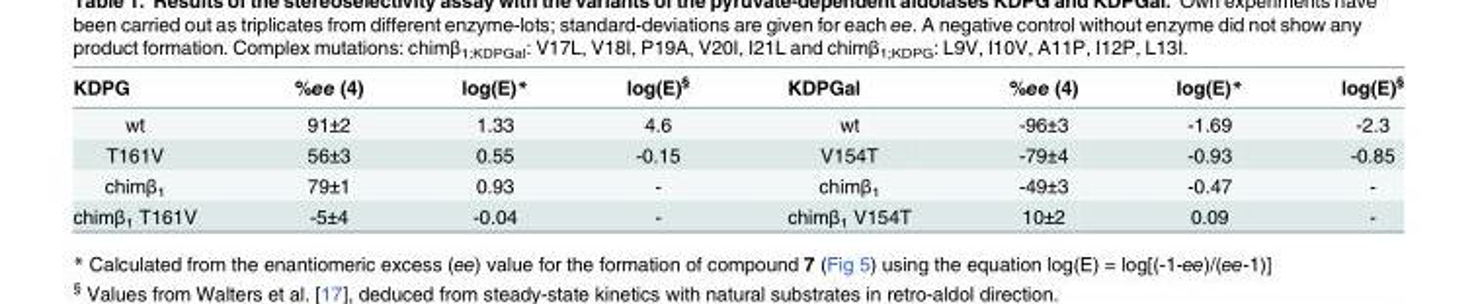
<table><thead><tr><td>KDPG</td><td>%ee (4)</td><td>log(E)*</td><td>log(E)<sup>§</sup></td><td>KDPGal</td><td>%ee (4)</td><td>log(E)*</td><td>log(E)<sup>§</sup></td></tr></thead><tbody><tr><td>wt</td><td>91±2</td><td>1.33</td><td>4.6</td><td>wt</td><td>-96±3</td><td>-1.69</td><td>-2.3</td></tr><tr><td>T161V</td><td>56±3</td><td>0.55</td><td>-0.15</td><td>V154T</td><td>-79±4</td><td>-0.93</td><td>-0.85</td></tr><tr><td>chimβ<sub>1</sub></td><td>79±1</td><td>0.93</td><td>-</td><td>chimβ<sub>1</sub></td><td>-49±3</td><td>-0.47</td><td>-</td></tr><tr><td>chimβ<sub>1</sub> T161V</td><td>-5±4</td><td>-0.04</td><td>-</td><td>chimβ<sub>1</sub> V154T</td><td>10±2</td><td>0.09</td><td>-</td></tr></tbody></table>